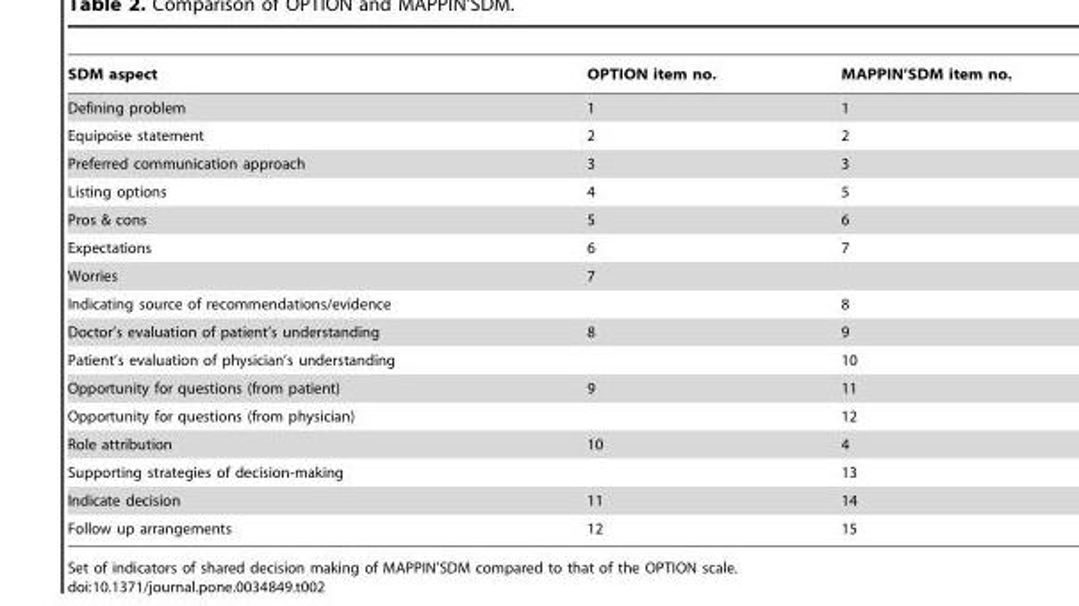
<table><thead><tr><td>SDM aspect</td><td>OPTION item no.</td><td>MAPPIN’SDM item no.</td></tr></thead><tbody><tr><td>Defining problem</td><td>1</td><td>1</td></tr><tr><td>Equipoise statement</td><td>2</td><td>2</td></tr><tr><td>Preferred communication approach</td><td>3</td><td>3</td></tr><tr><td>Listing options</td><td>4</td><td>5</td></tr><tr><td>Pros &amp; cons</td><td>5</td><td>6</td></tr><tr><td>Expectations</td><td>6</td><td>7</td></tr><tr><td>Worries</td><td>7</td><td></td></tr><tr><td>Indicating source of recommendations/evidence</td><td></td><td>8</td></tr><tr><td>Doctor’s evaluation of patient’s understanding</td><td>8</td><td>9</td></tr><tr><td>Patient’s evaluation of physician’s understanding</td><td></td><td>10</td></tr><tr><td>Opportunity for questions (from patient)</td><td>9</td><td>11</td></tr><tr><td>Opportunity for questions (from physician)</td><td></td><td>12</td></tr><tr><td>Role attribution</td><td>10</td><td>4</td></tr><tr><td>Supporting strategies of decision-making</td><td></td><td>13</td></tr><tr><td>Indicate decision</td><td>11</td><td>14</td></tr><tr><td>Follow up arrangements</td><td>12</td><td>15</td></tr></tbody></table>